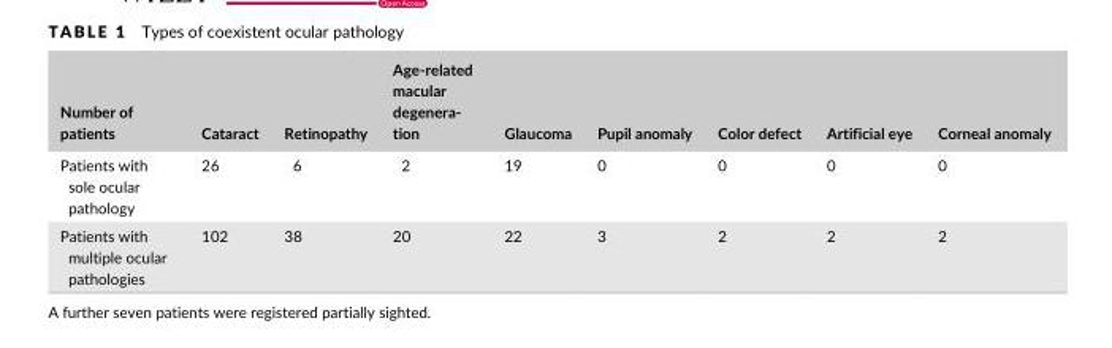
<table><thead><tr><td>Number of patients</td><td>Cataract</td><td>Retinopathy</td><td>Age- related macular degenera- tion</td><td>Glaucoma</td><td>Pupil anomaly</td><td>Color defect</td><td>Artificial eye</td><td>Corneal anomaly</td></tr></thead><tbody><tr><td>Patients with sole ocular pathology</td><td>26</td><td>6</td><td>2</td><td>19</td><td>0</td><td>0</td><td>0</td><td>0</td></tr><tr><td>Patients with multiple ocular pathologies</td><td>102</td><td>38</td><td>20</td><td>22</td><td>3</td><td>2</td><td>2</td><td>2</td></tr></tbody></table>